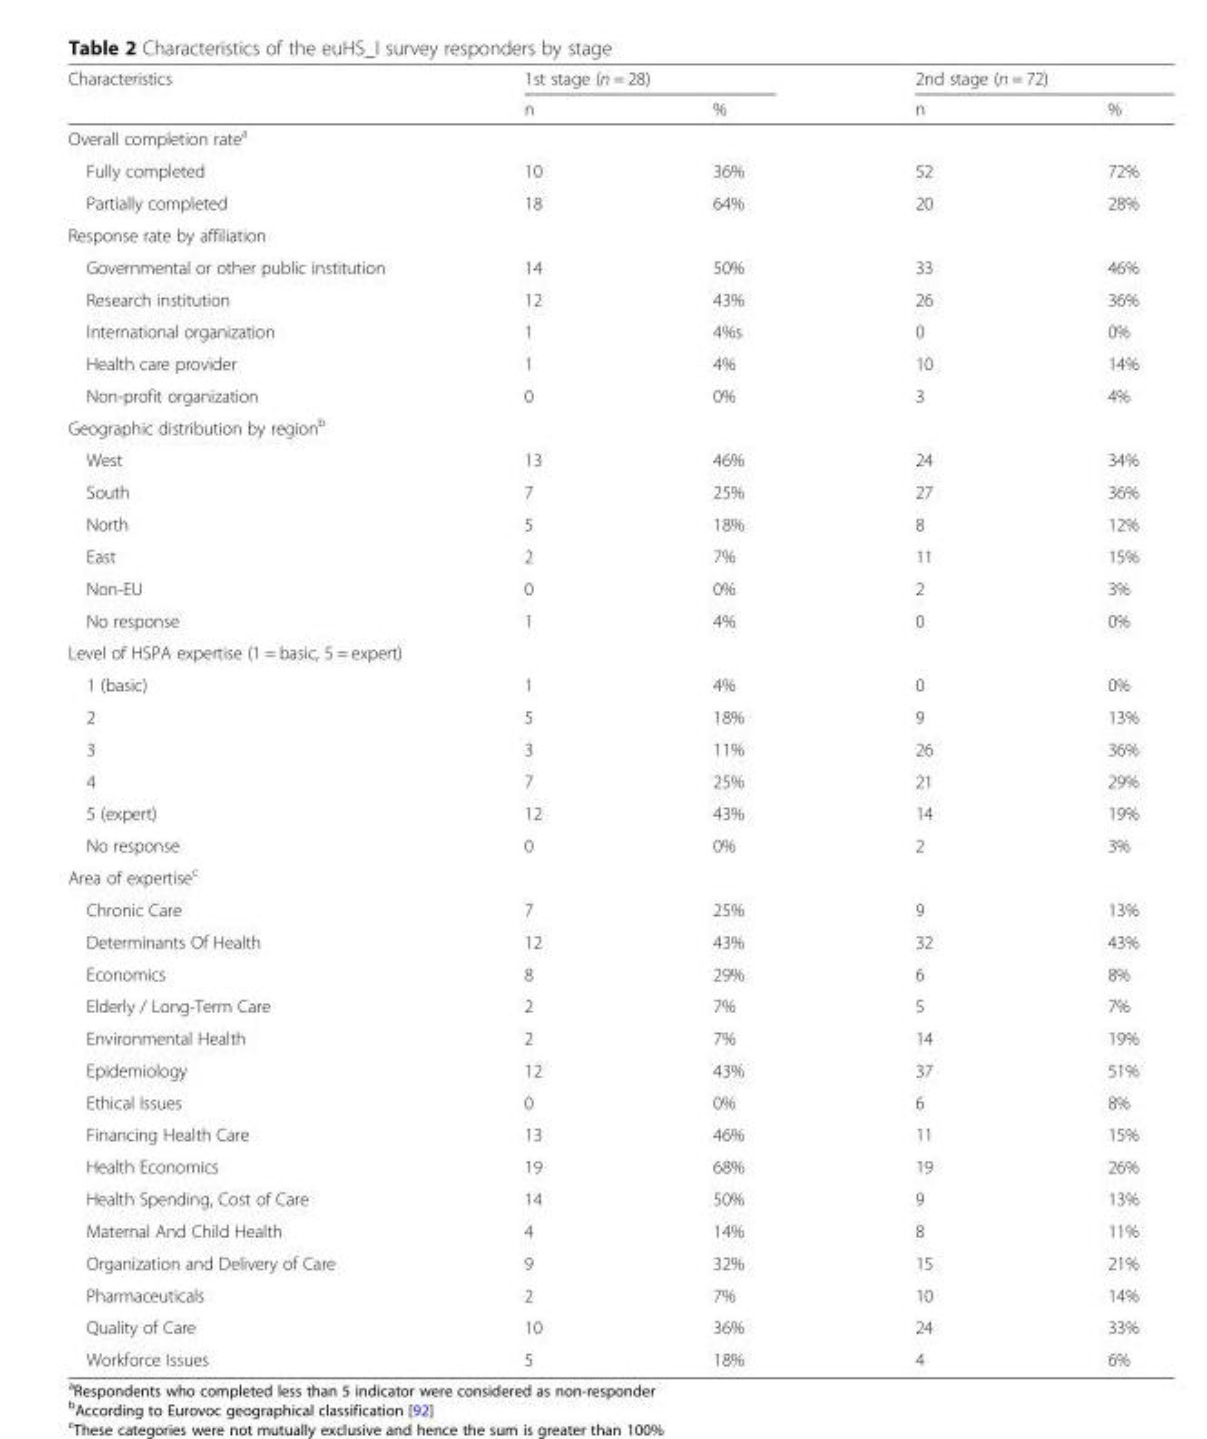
<table><thead><tr><td rowspan="2">Characteristics</td><td colspan="2">1st stage (n = 28)</td><td colspan="2">2nd stage (n = 72)</td></tr><tr><td>n</td><td>%</td><td>n</td><td>%</td></tr></thead><tbody><tr><td colspan="5">Overall completion rate<sup>a</sup></td></tr><tr><td>Fully completed</td><td>10</td><td>36%</td><td>52</td><td>72%</td></tr><tr><td>Partially completed</td><td>18</td><td>64%</td><td>20</td><td>28%</td></tr><tr><td colspan="5">Response rate by affiliation</td></tr><tr><td>Governmental or other public institution</td><td>14</td><td>50%</td><td>33</td><td>46%</td></tr><tr><td>Research institution</td><td>12</td><td>43%</td><td>26</td><td>36%</td></tr><tr><td>International organization</td><td>1</td><td>4%s</td><td>0</td><td>0%</td></tr><tr><td>Health care provider</td><td>1</td><td>4%</td><td>10</td><td>14%</td></tr><tr><td>Non-profit organization</td><td>0</td><td>0%</td><td>3</td><td>4%</td></tr><tr><td colspan="5">Geographic distribution by region<sup>b</sup></td></tr><tr><td>West</td><td>13</td><td>46%</td><td>24</td><td>34%</td></tr><tr><td>South</td><td>7</td><td>25%</td><td>27</td><td>36%</td></tr><tr><td>North</td><td>5</td><td>18%</td><td>8</td><td>12%</td></tr><tr><td>East</td><td>2</td><td>7%</td><td>11</td><td>15%</td></tr><tr><td>Non-EU</td><td>0</td><td>0%</td><td>2</td><td>3%</td></tr><tr><td>No response</td><td>1</td><td>4%</td><td>0</td><td>0%</td></tr><tr><td colspan="5">Level of HSPA expertise (1 = basic, 5 = expert)</td></tr><tr><td>1 (basic)</td><td>1</td><td>4%</td><td>0</td><td>0%</td></tr><tr><td>2</td><td>5</td><td>18%</td><td>9</td><td>13%</td></tr><tr><td>3</td><td>3</td><td>11%</td><td>26</td><td>36%</td></tr><tr><td>4</td><td>7</td><td>25%</td><td>21</td><td>29%</td></tr><tr><td>5 (expert)</td><td>12</td><td>43%</td><td>14</td><td>19%</td></tr><tr><td>No response</td><td>0</td><td>0%</td><td>2</td><td>3%</td></tr><tr><td colspan="5">Area of expertise<sup>c</sup></td></tr><tr><td>Chronic Care</td><td>7</td><td>25%</td><td>9</td><td>13%</td></tr><tr><td>Determinants Of Health</td><td>12</td><td>43%</td><td>32</td><td>43%</td></tr><tr><td>Economics</td><td>8</td><td>29%</td><td>6</td><td>8%</td></tr><tr><td>Elderly / Long-Term Care</td><td>2</td><td>7%</td><td>5</td><td>7%</td></tr><tr><td>Environmental Health</td><td>2</td><td>7%</td><td>14</td><td>19%</td></tr><tr><td>Epidemiology</td><td>12</td><td>43%</td><td>37</td><td>51%</td></tr><tr><td>Ethical Issues</td><td>0</td><td>0%</td><td>6</td><td>8%</td></tr><tr><td>Financing Health Care</td><td>13</td><td>46%</td><td>11</td><td>15%</td></tr><tr><td>Health Economics</td><td>19</td><td>68%</td><td>19</td><td>26%</td></tr><tr><td>Health Spending, Cost of Care</td><td>14</td><td>50%</td><td>9</td><td>13%</td></tr><tr><td>Maternal And Child Health</td><td>4</td><td>14%</td><td>8</td><td>11%</td></tr><tr><td>Organization and Delivery of Care</td><td>9</td><td>32%</td><td>15</td><td>21%</td></tr><tr><td>Pharmaceuticals</td><td>2</td><td>7%</td><td>10</td><td>14%</td></tr><tr><td>Quality of Care</td><td>10</td><td>36%</td><td>24</td><td>33%</td></tr><tr><td>Workforce Issues</td><td>5</td><td>18%</td><td>4</td><td>6%</td></tr></tbody></table>